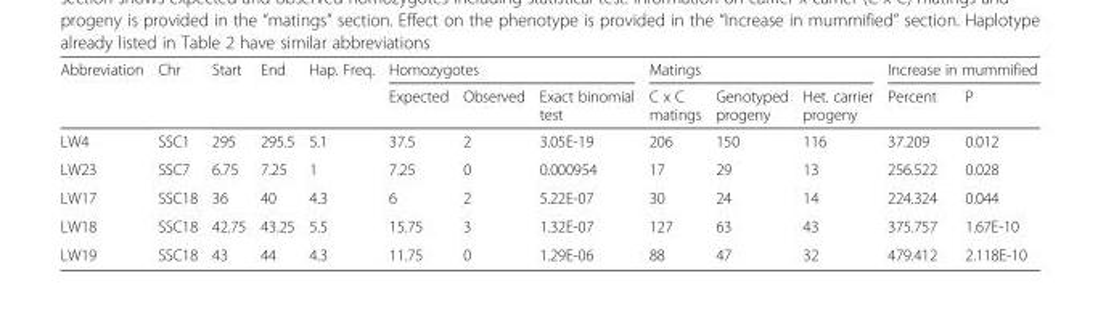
<table><thead><tr><td rowspan="2">Abbreviation</td><td rowspan="2">Chr</td><td rowspan="2">Start</td><td rowspan="2">End</td><td rowspan="2">Hap. Freq.</td><td colspan="3">Homozygotes</td><td colspan="3">Matings</td><td colspan="2">Increase in mummified</td></tr><tr><td>Expected</td><td>Observed</td><td>Exact binomial test</td><td>C x C matings</td><td>Genotyped progeny</td><td>Het. carrier progeny</td><td>Percent</td><td>P</td></tr></thead><tbody><tr><td>LW4</td><td>SSC1</td><td>295</td><td>295.5</td><td>5.1</td><td>37.5</td><td>2</td><td>3.05E-19</td><td>206</td><td>150</td><td>116</td><td>37.209</td><td>0.012</td></tr><tr><td>LW23</td><td>SSC7</td><td>6.75</td><td>7.25</td><td>1</td><td>7.25</td><td>0</td><td>0.000954</td><td>17</td><td>29</td><td>13</td><td>256.522</td><td>0.028</td></tr><tr><td>LW17</td><td>SSC18</td><td>36</td><td>40</td><td>4.3</td><td>6</td><td>2</td><td>5.22E-07</td><td>30</td><td>24</td><td>14</td><td>224.324</td><td>0.044</td></tr><tr><td>LW18</td><td>SSC18</td><td>42.75</td><td>43.25</td><td>5.5</td><td>15.75</td><td>3</td><td>1.32E-07</td><td>127</td><td>63</td><td>43</td><td>375.757</td><td>1.67E-10</td></tr><tr><td>LW19</td><td>SSC18</td><td>43</td><td>44</td><td>4.3</td><td>11.75</td><td>0</td><td>1.29E-06</td><td>88</td><td>47</td><td>32</td><td>479.412</td><td>2.118E-10</td></tr></tbody></table>